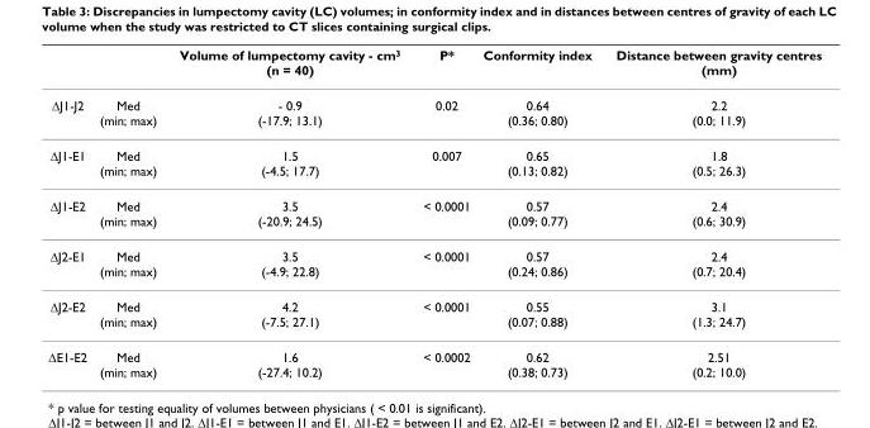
<table><thead><tr><td></td><td></td><td>Volume of lumpectomy cavity - cm<sup>3</sup> (n = 40)</td><td>P*</td><td>Conformity index</td><td>Distance between gravity centres (mm)</td></tr></thead><tbody><tr><td>ΔJ1-J2</td><td>Med (min; max)</td><td>- 0.9 (-17.9; 13.1)</td><td>0.02</td><td>0.64 (0.36; 0.80)</td><td>2.2 (0.0; 11.9)</td></tr><tr><td>ΔJ1-E1</td><td>Med (min; max)</td><td>1.5 (-4.5; 17.7)</td><td>0.007</td><td>0.65 (0.13; 0.82)</td><td>1.8 (0.5; 26.3)</td></tr><tr><td>ΔJ1-E2</td><td>Med (min; max)</td><td>3.5 (-20.9; 24.5)</td><td>&lt; 0.0001</td><td>0.57 (0.09; 0.77)</td><td>2.4 (0.6; 30.9)</td></tr><tr><td>ΔJ2-E1</td><td>Med (min; max)</td><td>3.5 (-4.9; 22.8)</td><td>&lt; 0.0001</td><td>0.57 (0.24; 0.86)</td><td>2.4 (0.7; 20.4)</td></tr><tr><td>ΔJ2-E2</td><td>Med (min; max)</td><td>4.2 (-7.5; 27.1)</td><td>&lt; 0.0001</td><td>0.55 (0.07; 0.88)</td><td>3.1 (1.3; 24.7)</td></tr><tr><td>ΔE1-E2</td><td>Med (min; max)</td><td>1.6 (-27.4; 10.2)</td><td>&lt; 0.0002</td><td>0.62 (0.38; 0.73)</td><td>2.51 (0.2; 10.0)</td></tr></tbody></table>